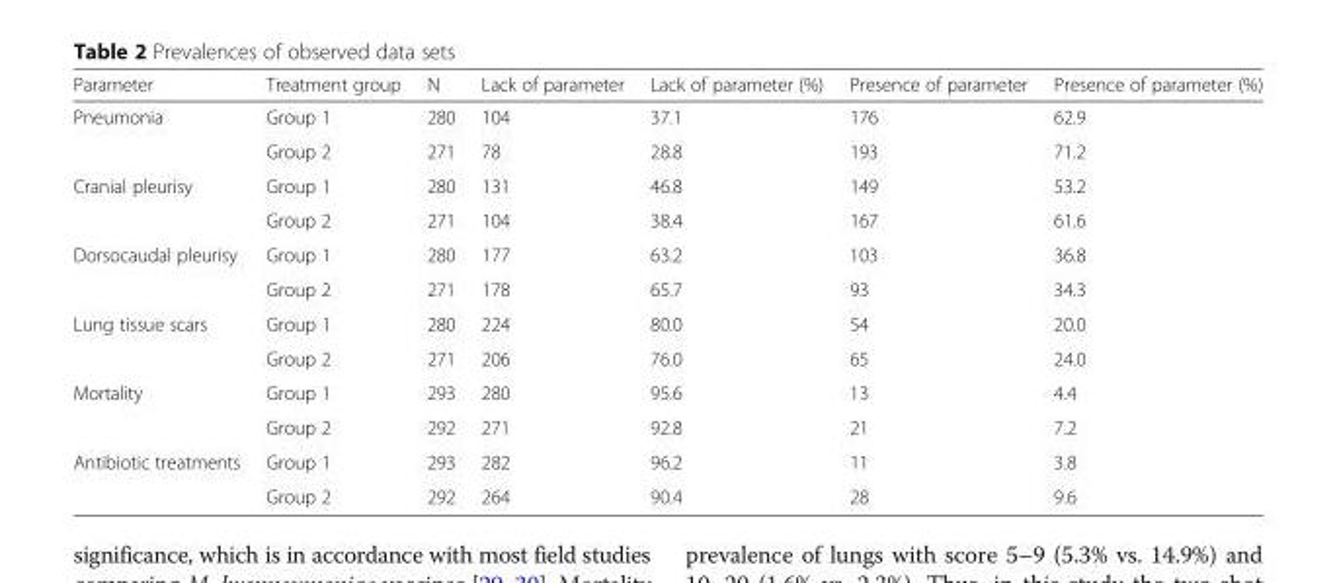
<table><thead><tr><td>Parameter</td><td>Treatment group</td><td>N</td><td>Lack of parameter</td><td>Lack of parameter (%)</td><td>Presence of parameter</td><td>Presence of parameter (%)</td></tr></thead><tbody><tr><td rowspan="2">Pneumonia</td><td>Group 1</td><td>280</td><td>104</td><td>37.1</td><td>176</td><td>62.9</td></tr><tr><td>Group 2</td><td>271</td><td>78</td><td>28.8</td><td>193</td><td>71.2</td></tr><tr><td rowspan="2">Cranial pleurisy</td><td>Group 1</td><td>280</td><td>131</td><td>46.8</td><td>149</td><td>53.2</td></tr><tr><td>Group 2</td><td>271</td><td>104</td><td>38.4</td><td>167</td><td>61.6</td></tr><tr><td rowspan="2">Dorsocaudal pleurisy</td><td>Group 1</td><td>280</td><td>177</td><td>63.2</td><td>103</td><td>36.8</td></tr><tr><td>Group 2</td><td>271</td><td>178</td><td>65.7</td><td>93</td><td>34.3</td></tr><tr><td rowspan="2">Lung tissue scars</td><td>Group 1</td><td>280</td><td>224</td><td>80.0</td><td>54</td><td>20.0</td></tr><tr><td>Group 2</td><td>271</td><td>206</td><td>76.0</td><td>65</td><td>24.0</td></tr><tr><td rowspan="2">Mortality</td><td>Group 1</td><td>293</td><td>280</td><td>95.6</td><td>13</td><td>4.4</td></tr><tr><td>Group 2</td><td>292</td><td>271</td><td>92.8</td><td>21</td><td>7.2</td></tr><tr><td rowspan="2">Antibiotic treatments</td><td>Group 1</td><td>293</td><td>282</td><td>96.2</td><td>11</td><td>3.8</td></tr><tr><td>Group 2</td><td>292</td><td>264</td><td>90.4</td><td>28</td><td>9.6</td></tr></tbody></table>